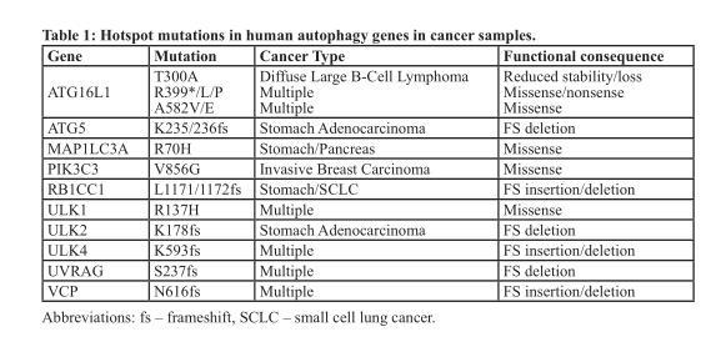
<table><thead><tr><td>Gene</td><td>Mutation</td><td>Cancer Type</td><td>Functional consequence</td></tr></thead><tbody><tr><td>ATG16L1</td><td>T300A R399*/L/P A582V/E</td><td>Diffuse Large B-Cell Lymphoma Multiple Multiple</td><td>Reduced stability/loss Missense/nonsense Missense</td></tr><tr><td>ATG5</td><td>K235/236fs</td><td>Stomach Adenocarcinoma</td><td>FS deletion</td></tr><tr><td>MAP1LC3A</td><td>R70H</td><td>Stomach/Pancreas</td><td>Missense</td></tr><tr><td>PIK3C3</td><td>V856G</td><td>Invasive Breast Carcinoma</td><td>Missense</td></tr><tr><td>RB1CC1</td><td>L1171/1172fs</td><td>Stomach/SCLC</td><td>FS insertion/deletion</td></tr><tr><td>ULK1</td><td>R137H</td><td>Multiple</td><td>Missense</td></tr><tr><td>ULK2</td><td>K178fs</td><td>Stomach Adenocarcinoma</td><td>FS deletion</td></tr><tr><td>ULK4</td><td>K593fs</td><td>Multiple</td><td>FS insertion/deletion</td></tr><tr><td>UVRAG</td><td>S237fs</td><td>Multiple</td><td>FS deletion</td></tr><tr><td>VCP</td><td>N616fs</td><td>Multiple</td><td>FS insertion/deletion</td></tr></tbody></table>